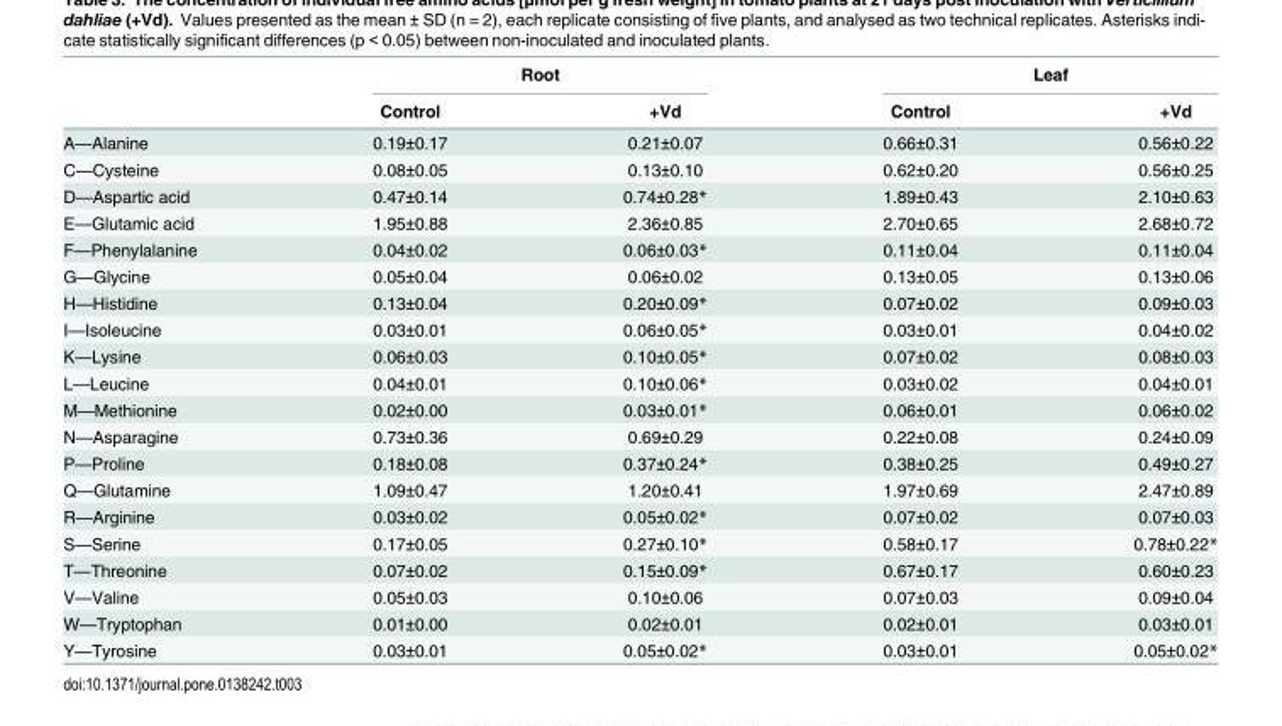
<table><thead><tr><td rowspan="2"></td><td colspan="2">Root</td><td colspan="2">Leaf</td></tr><tr><td>Control</td><td>+Vd</td><td>Control</td><td>+Vd</td></tr></thead><tbody><tr><td>A—Alanine</td><td>0.19±0.17</td><td>0.21±0.07</td><td>0.66±0.31</td><td>0.56±0.22</td></tr><tr><td>C—Cysteine</td><td>0.08±0.05</td><td>0.13±0.10</td><td>0.62±0.20</td><td>0.56±0.25</td></tr><tr><td>D—Aspartic acid</td><td>0.47±0.14</td><td>0.74±0.28*</td><td>1.89±0.43</td><td>2.10±0.63</td></tr><tr><td>E—Glutamic acid</td><td>1.95±0.88</td><td>2.36±0.85</td><td>2.70±0.65</td><td>2.68±0.72</td></tr><tr><td>F—Phenylalanine</td><td>0.04±0.02</td><td>0.06±0.03*</td><td>0.11±0.04</td><td>0.11±0.04</td></tr><tr><td>G—Glycine</td><td>0.05±0.04</td><td>0.06±0.02</td><td>0.13±0.05</td><td>0.13±0.06</td></tr><tr><td>H—Histidine</td><td>0.13±0.04</td><td>0.20±0.09*</td><td>0.07±0.02</td><td>0.09±0.03</td></tr><tr><td>I—Isoleucine</td><td>0.03±0.01</td><td>0.06±0.05*</td><td>0.03±0.01</td><td>0.04±0.02</td></tr><tr><td>K—Lysine</td><td>0.06±0.03</td><td>0.10±0.05*</td><td>0.07±0.02</td><td>0.08±0.03</td></tr><tr><td>L—Leucine</td><td>0.04±0.01</td><td>0.10±0.06*</td><td>0.03±0.02</td><td>0.04±0.01</td></tr><tr><td>M—Methionine</td><td>0.02±0.00</td><td>0.03±0.01*</td><td>0.06±0.01</td><td>0.06±0.02</td></tr><tr><td>N—Asparagine</td><td>0.73±0.36</td><td>0.69±0.29</td><td>0.22±0.08</td><td>0.24±0.09</td></tr><tr><td>P—Proline</td><td>0.18±0.08</td><td>0.37±0.24*</td><td>0.38±0.25</td><td>0.49±0.27</td></tr><tr><td>Q—Glutamine</td><td>1.09±0.47</td><td>1.20±0.41</td><td>1.97±0.69</td><td>2.47±0.89</td></tr><tr><td>R—Arginine</td><td>0.03±0.02</td><td>0.05±0.02*</td><td>0.07±0.02</td><td>0.07±0.03</td></tr><tr><td>S—Serine</td><td>0.17±0.05</td><td>0.27±0.10*</td><td>0.58±0.17</td><td>0.78±0.22*</td></tr><tr><td>T—Threonine</td><td>0.07±0.02</td><td>0.15±0.09*</td><td>0.67±0.17</td><td>0.60±0.23</td></tr><tr><td>V—Valine</td><td>0.05±0.03</td><td>0.10±0.06</td><td>0.07±0.03</td><td>0.09±0.04</td></tr><tr><td>W—Tryptophan</td><td>0.01±0.00</td><td>0.02±0.01</td><td>0.02±0.01</td><td>0.03±0.01</td></tr><tr><td>Y—Tyrosine</td><td>0.03±0.01</td><td>0.05±0.02*</td><td>0.03±0.01</td><td>0.05±0.02*</td></tr></tbody></table>